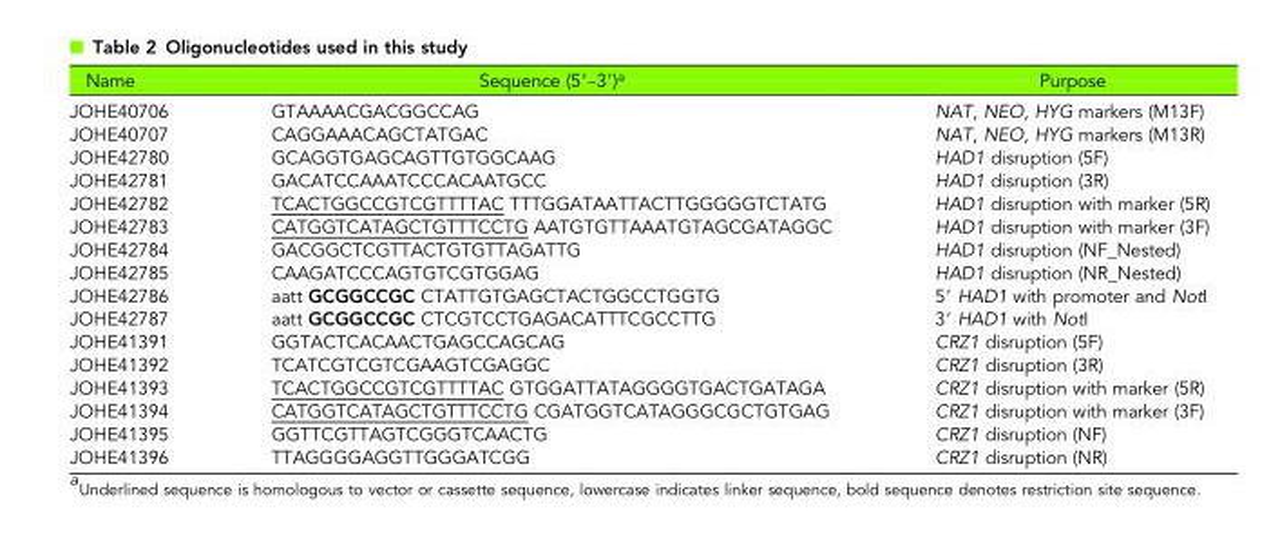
<table><thead><tr><td>Name</td><td>Sequence (5′–3′)<sup>a</sup></td><td>Purpose</td></tr></thead><tbody><tr><td>JOHE40706</td><td>GTAAAACGACGGCCAG</td><td>NAT, NEO, HYG markers (M13F)</td></tr><tr><td>JOHE40707</td><td>CAGGAAACAGCTATGAC</td><td>NAT, NEO, HYG markers (M13R)</td></tr><tr><td>JOHE42780</td><td>GCAGGTGAGCAGTTGTGGCAAG</td><td>HAD1 disruption (5F)</td></tr><tr><td>JOHE42781</td><td>GACATCCAAATCCCACAATGCC</td><td>HAD1 disruption (3R)</td></tr><tr><td>JOHE42782</td><td>TCACTGGCCGTCGTTTTAC TTTGGATAATTACTTGGGGGTCTATG</td><td>HAD1 disruption with marker (5R)</td></tr><tr><td>JOHE42783</td><td>CATGGTCATAGCTGTTTCCTG AATGTGTTAAATGTAGCGATAGGC</td><td>HAD1 disruption with marker (3F)</td></tr><tr><td>JOHE42784</td><td>GACGGCTCGTTACTGTGTTAGATTG</td><td>HAD1 disruption (NF_Nested)</td></tr><tr><td>JOHE42785</td><td>CAAGATCCCAGTGTCGTGGAG</td><td>HAD1 disruption (NR_Nested)</td></tr><tr><td>JOHE42786</td><td>aatt GCGGCCGC CTATTGTGAGCTACTGGCCTGGTG</td><td>5′ HAD1 with promoter and NotI</td></tr><tr><td>JOHE42787</td><td>aatt GCGGCCGC CTCGTCCTGAGACATTTCGCCTTG</td><td>3′ HAD1 with NotI</td></tr><tr><td>JOHE41391</td><td>GGTACTCACAACTGAGCCAGCAG</td><td>CRZ1 disruption (5F)</td></tr><tr><td>JOHE41392</td><td>TCATCGTCGTCGAAGTCGAGGC</td><td>CRZ1 disruption (3R)</td></tr><tr><td>JOHE41393</td><td>TCACTGGCCGTCGTTTTAC GTGGATTATAGGGGTGACTGATAGA</td><td>CRZ1 disruption with marker (5R)</td></tr><tr><td>JOHE41394</td><td>CATGGTCATAGCTGTTTCCTG CGATGGTCATAGGGCGCTGTGAG</td><td>CRZ1 disruption with marker (3F)</td></tr><tr><td>JOHE41395</td><td>GGTTCGTTAGTCGGGTCAACTG</td><td>CRZ1 disruption (NF)</td></tr><tr><td>JOHE41396</td><td>TTAGGGGAGGTTGGGATCGG</td><td>CRZ1 disruption (NR)</td></tr></tbody></table>